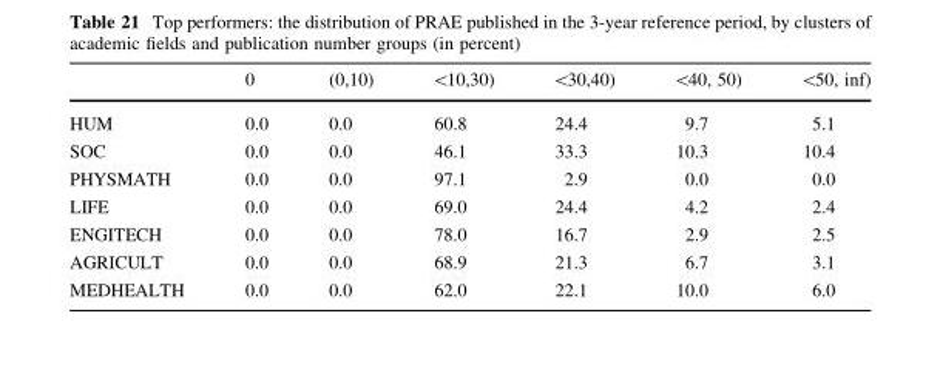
<table><thead><tr><td></td><td>0</td><td>(0,10)</td><td>&lt;10,30)</td><td>&lt;30,40)</td><td>&lt;40, 50)</td><td>&lt;50, inf)</td></tr></thead><tbody><tr><td>HUM</td><td>0.0</td><td>0.0</td><td>60.8</td><td>24.4</td><td>9.7</td><td>5.1</td></tr><tr><td>SOC</td><td>0.0</td><td>0.0</td><td>46.1</td><td>33.3</td><td>10.3</td><td>10.4</td></tr><tr><td>PHYSMATH</td><td>0.0</td><td>0.0</td><td>97.1</td><td>2.9</td><td>0.0</td><td>0.0</td></tr><tr><td>LIFE</td><td>0.0</td><td>0.0</td><td>69.0</td><td>24.4</td><td>4.2</td><td>2.4</td></tr><tr><td>ENGITECH</td><td>0.0</td><td>0.0</td><td>78.0</td><td>16.7</td><td>2.9</td><td>2.5</td></tr><tr><td>AGRICULT</td><td>0.0</td><td>0.0</td><td>68.9</td><td>21.3</td><td>6.7</td><td>3.1</td></tr><tr><td>MEDHEALTH</td><td>0.0</td><td>0.0</td><td>62.0</td><td>22.1</td><td>10.0</td><td>6.0</td></tr></tbody></table>